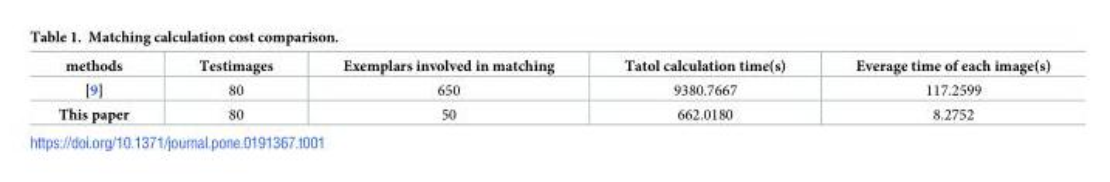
<table><thead><tr><td>methods</td><td>Testimages</td><td>Exemplars involved in matching</td><td>Tatol calculation time(s)</td><td>Everage time of each image(s)</td></tr></thead><tbody><tr><td>[9]</td><td>80</td><td>650</td><td>9380.7667</td><td>117.2599</td></tr><tr><td>This paper</td><td>80</td><td>50</td><td>662.0180</td><td>8.2752</td></tr></tbody></table>